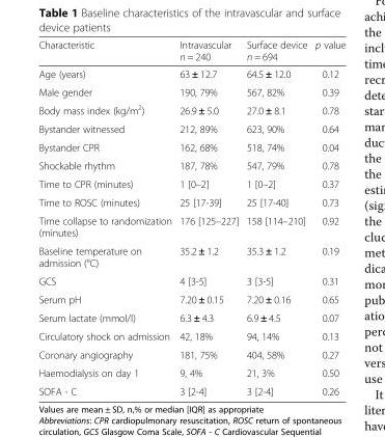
<table><thead><tr><td>Characteristic</td><td>Intravascular n = 240</td><td>Surface device n = 694</td><td>p value</td></tr></thead><tbody><tr><td>Age (years)</td><td>63 ± 12.7</td><td>64.5 ± 12.0</td><td>0.12</td></tr><tr><td>Male gender</td><td>190, 79%</td><td>567, 82%</td><td>0.39</td></tr><tr><td>Body mass index (kg/m<sup>2</sup>)</td><td>26.9 ± 5.0</td><td>27.0 ± 8.1</td><td>0.78</td></tr><tr><td>Bystander witnessed</td><td>212, 89%</td><td>623, 90%</td><td>0.64</td></tr><tr><td>Bystander CPR</td><td>162, 68%</td><td>518, 74%</td><td>0.04</td></tr><tr><td>Shockable rhythm</td><td>187, 78%</td><td>547, 79%</td><td>0.78</td></tr><tr><td>Time to CPR (minutes)</td><td>1 [0–2]</td><td>1 [0–2]</td><td>0.37</td></tr><tr><td>Time to ROSC (minutes)</td><td>25 [17-39]</td><td>25 [17-40]</td><td>0.73</td></tr><tr><td>Time collapse to randomization (minutes)</td><td>176 [125–227]</td><td>158 [114–210]</td><td>0.92</td></tr><tr><td>Baseline temperature on admission (°C)</td><td>35.2 ± 1.2</td><td>35.3 ± 1.2</td><td>0.19</td></tr><tr><td>GCS</td><td>4 [3-5]</td><td>3 [3-5]</td><td>0.31</td></tr><tr><td>Serum pH</td><td>7.20 ± 0.15</td><td>7.20 ± 0.16</td><td>0.65</td></tr><tr><td>Serum lactate (mmol/l)</td><td>6.3 ± 4.3</td><td>6.9 ± 4.5</td><td>0.07</td></tr><tr><td>Circulatory shock on admission</td><td>42, 18%</td><td>94, 14%</td><td>0.13</td></tr><tr><td>Coronary angiography</td><td>181, 75%</td><td>404, 58%</td><td>0.27</td></tr><tr><td>Haemodialysis on day 1</td><td>9, 4%</td><td>21, 3%</td><td>0.50</td></tr><tr><td>SOFA - C</td><td>3 [2-4]</td><td>3 [2-4]</td><td>0.26</td></tr></tbody></table>